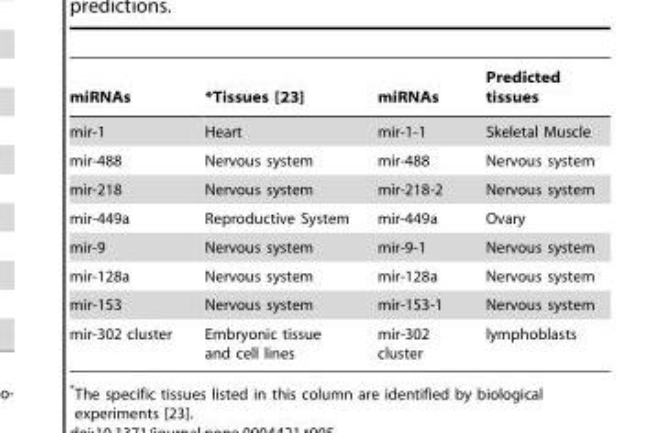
<table><thead><tr><td>miRNAs</td><td>*Tissues [23]</td><td>miRNAs</td><td>Predicted tissues</td></tr></thead><tbody><tr><td>mir-1</td><td>Heart</td><td>mir-1-1</td><td>Skeletal Muscle</td></tr><tr><td>mir-488</td><td>Nervous system</td><td>mir-488</td><td>Nervous system</td></tr><tr><td>mir-218</td><td>Nervous system</td><td>mir-218-2</td><td>Nervous system</td></tr><tr><td>mir-449a</td><td>Reproductive System</td><td>mir-449a</td><td>Ovary</td></tr><tr><td>mir-9</td><td>Nervous system</td><td>mir-9-1</td><td>Nervous system</td></tr><tr><td>mir-128a</td><td>Nervous system</td><td>mir-128a</td><td>Nervous system</td></tr><tr><td>mir-153</td><td>Nervous system</td><td>mir-153-1</td><td>Nervous system</td></tr><tr><td>mir-302 cluster</td><td>Embryonic tissue and cell lines</td><td>mir-302 cluster</td><td>lymphoblasts</td></tr></tbody></table>